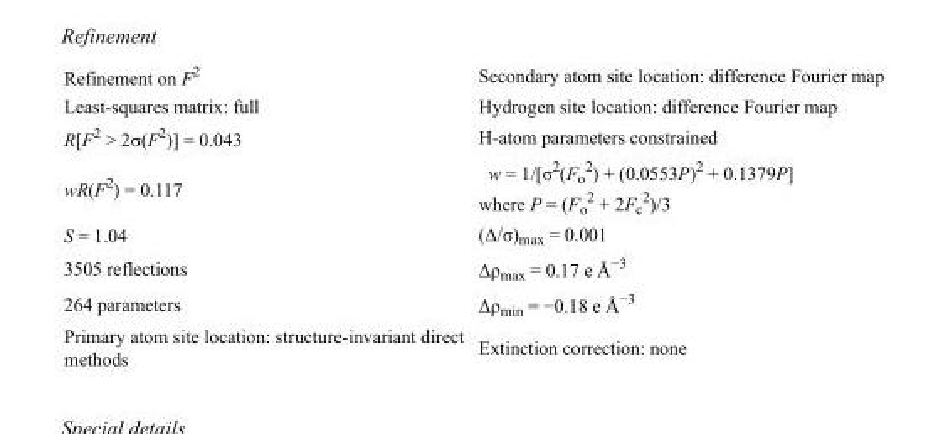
<table><tbody><tr><td>Refinement on F<sup>2</sup></td><td>Secondary atom site location: difference Fourier map</td></tr><tr><td>Least-squares matrix: full</td><td>Hydrogen site location: difference Fourier map</td></tr><tr><td>R[F<sup>2</sup> &gt; 2σ(F<sup>2</sup>)] = 0.043</td><td>H-atom parameters constrained</td></tr><tr><td>wR(F<sup>2</sup>) = 0.117</td><td>w = 1/[σ<sup>2</sup>(F<sub>o</sub> <sup>2</sup>) + (0.0553P)<sup>2</sup> + 0.1379P] where P = (F<sub>o</sub> <sup>2</sup> + 2F<sub>c</sub> <sup>2</sup>)/3</td></tr><tr><td>S = 1.04</td><td>(Δ/σ)<sub>max</sub> = 0.001</td></tr><tr><td>3505 reflections</td><td>Δρ<sub>max</sub> = 0.17 e Å<sup>−3</sup></td></tr><tr><td>264 parameters</td><td>Δρ<sub>min</sub> = −0.18 e Å<sup>−3</sup></td></tr><tr><td>Primary atom site location: structure-invariant direct methods</td><td>Extinction correction: none</td></tr></tbody></table>